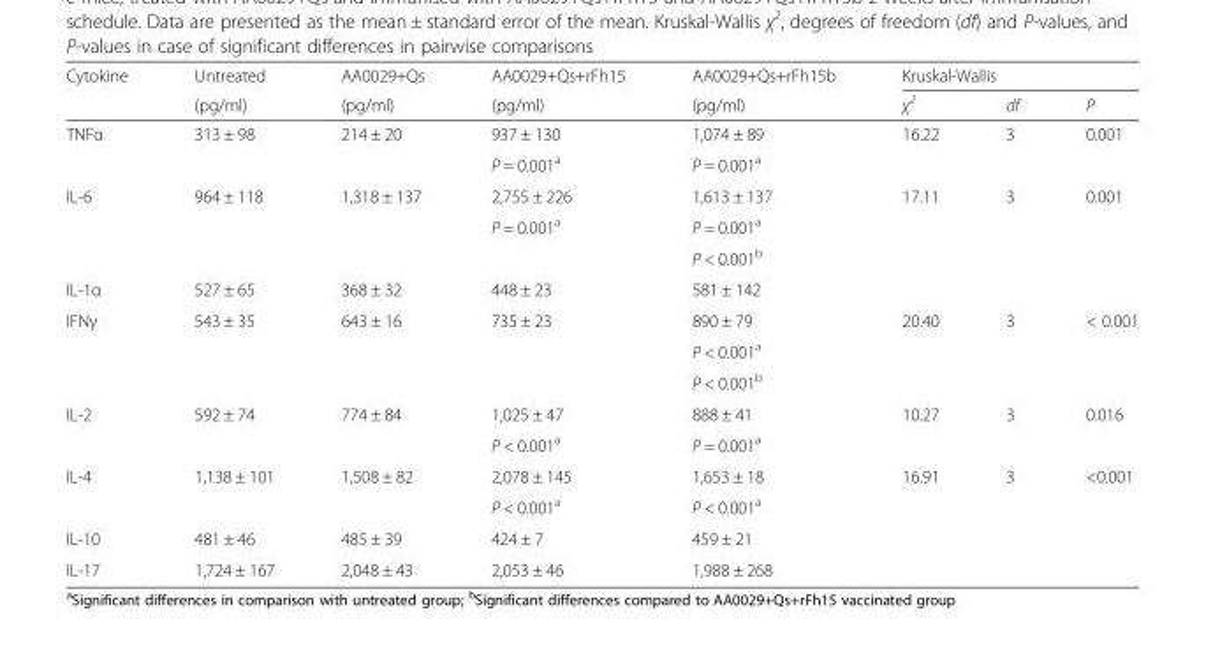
<table><thead><tr><td rowspan="2">Cytokine</td><td rowspan="2">Untreated (pg/ml)</td><td rowspan="2">AA0029+Qs (pg/ml)</td><td rowspan="2">AA0029+Qs+rFh15 (pg/ml)</td><td rowspan="2">AA0029+Qs+rFh15b (pg/ml)</td><td colspan="3">Kruskal-Wallis</td></tr><tr><td>χ<sup>2</sup></td><td>df</td><td>P</td></tr></thead><tbody><tr><td rowspan="2">TNFα</td><td rowspan="2">313 ± 98</td><td rowspan="2">214 ± 20</td><td>937 ± 130</td><td>1,074 ± 89</td><td rowspan="2">16.22</td><td rowspan="2">3</td><td rowspan="2">0.001</td></tr><tr><td>P = 0.001<sup>a</sup></td><td>P = 0.001<sup>a</sup></td></tr><tr><td rowspan="3">IL-6</td><td rowspan="3">964 ± 118</td><td rowspan="3">1,318 ± 137</td><td>2,755 ± 226</td><td>1,613 ± 137</td><td rowspan="3">17.11</td><td rowspan="3">3</td><td rowspan="3">0.001</td></tr><tr><td rowspan="2">P = 0.001<sup>a</sup></td><td>P = 0.001<sup>a</sup></td></tr><tr><td>P &lt; 0.001<sup>b</sup></td></tr><tr><td>IL-1α</td><td>527 ± 65</td><td>368 ± 32</td><td>448 ± 23</td><td>581 ± 142</td><td></td><td></td><td></td></tr><tr><td rowspan="3">IFNγ</td><td rowspan="3">543 ± 35</td><td rowspan="3">643 ± 16</td><td rowspan="3">735 ± 23</td><td>890 ± 79</td><td rowspan="3">20.40</td><td rowspan="3">3</td><td rowspan="3">&lt; 0.001</td></tr><tr><td>P &lt; 0.001<sup>a</sup></td></tr><tr><td>P &lt; 0.001<sup>b</sup></td></tr><tr><td rowspan="2">IL-2</td><td rowspan="2">592 ± 74</td><td rowspan="2">774 ± 84</td><td>1,025 ± 47</td><td>888 ± 41</td><td rowspan="2">10.27</td><td rowspan="2">3</td><td rowspan="2">0.016</td></tr><tr><td>P &lt; 0.001<sup>a</sup></td><td>P = 0.001<sup>a</sup></td></tr><tr><td rowspan="2">IL-4</td><td rowspan="2">1,138 ± 101</td><td rowspan="2">1,508 ± 82</td><td>2,078 ± 145</td><td>1,653 ± 18</td><td rowspan="2">16.91</td><td rowspan="2">3</td><td rowspan="2">&lt;0.001</td></tr><tr><td>P &lt; 0.001<sup>a</sup></td><td>P &lt; 0.001<sup>a</sup></td></tr><tr><td>IL-10</td><td>481 ± 46</td><td>485 ± 39</td><td>424 ± 7</td><td>459 ± 21</td><td></td><td></td><td></td></tr><tr><td>IL-17</td><td>1,724 ± 167</td><td>2,048 ± 43</td><td>2,053 ± 46</td><td>1,988 ± 268</td><td></td><td></td><td></td></tr></tbody></table>